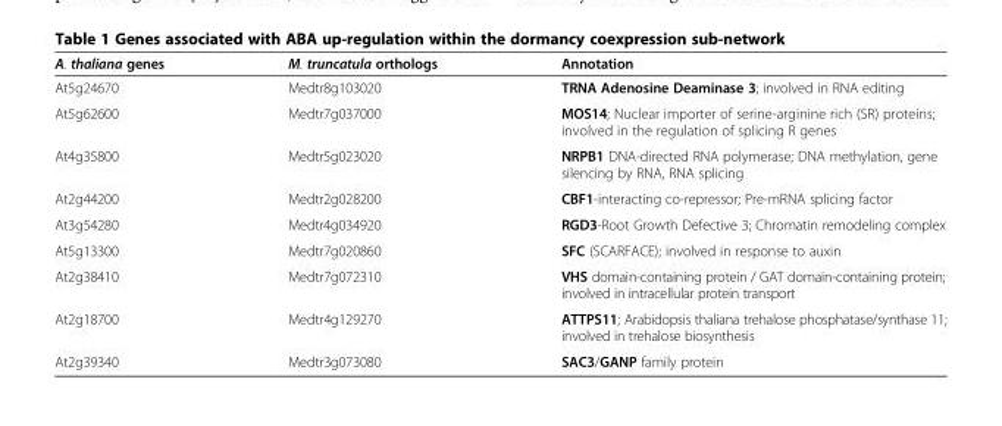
<table><thead><tr><td>A. thaliana genes</td><td>M. truncatula orthologs</td><td>Annotation</td></tr></thead><tbody><tr><td>At5g24670</td><td>Medtr8g103020</td><td>TRNA Adenosine Deaminase 3; involved in RNA editing</td></tr><tr><td>At5g62600</td><td>Medtr7g037000</td><td>MOS14; Nuclear importer of serine-arginine rich (SR) proteins; involved in the regulation of splicing R genes</td></tr><tr><td>At4g35800</td><td>Medtr5g023020</td><td>NRPB1 DNA-directed RNA polymerase; DNA methylation, gene silencing by RNA, RNA splicing</td></tr><tr><td>At2g44200</td><td>Medtr2g028200</td><td>CBF1-interacting co-repressor; Pre-mRNA splicing factor</td></tr><tr><td>At3g54280</td><td>Medtr4g034920</td><td>RGD3-Root Growth Defective 3; Chromatin remodeling complex</td></tr><tr><td>At5g13300</td><td>Medtr7g020860</td><td>SFC (SCARFACE); involved in response to auxin</td></tr><tr><td>At2g38410</td><td>Medtr7g072310</td><td>VHS domain-containing protein / GAT domain-containing protein; involved in intracellular protein transport</td></tr><tr><td>At2g18700</td><td>Medtr4g129270</td><td>ATTPS11; Arabidopsis thaliana trehalose phosphatase/synthase 11; involved in trehalose biosynthesis</td></tr><tr><td>At2g39340</td><td>Medtr3g073080</td><td>SAC3/GANP family protein</td></tr></tbody></table>